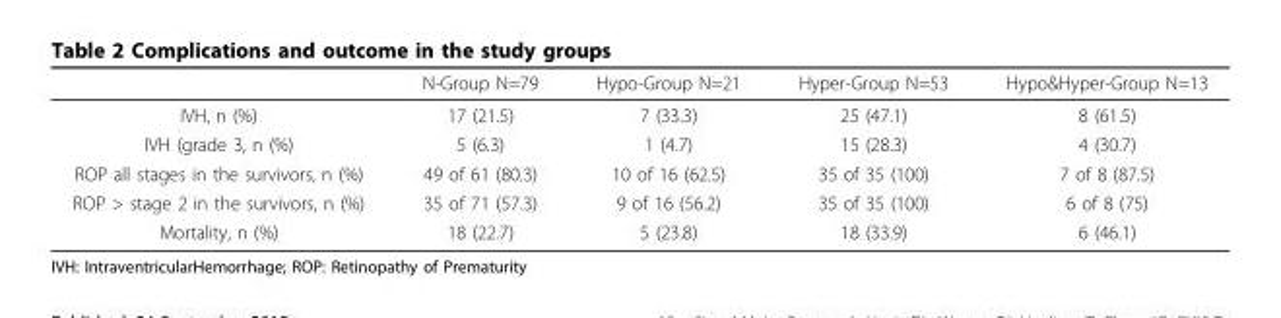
<table><thead><tr><td></td><td>N-Group N=79</td><td>Hypo-Group N=21</td><td>Hyper-Group N=53</td><td>Hypo&amp;Hyper-Group N=13</td></tr></thead><tbody><tr><td>IVH, n (%)</td><td>17 (21.5)</td><td>7 (33.3)</td><td>25 (47.1)</td><td>8 (61.5)</td></tr><tr><td>IVH (grade 3, n (%)</td><td>5 (6.3)</td><td>1 (4.7)</td><td>15 (28.3)</td><td>4 (30.7)</td></tr><tr><td>ROP all stages in the survivors, n (%)</td><td>49 of 61 (80.3)</td><td>10 of 16 (62.5)</td><td>35 of 35 (100)</td><td>7 of 8 (87.5)</td></tr><tr><td>ROP &gt; stage 2 in the survivors, n (%)</td><td>35 of 71 (57.3)</td><td>9 of 16 (56.2)</td><td>35 of 35 (100)</td><td>6 of 8 (75)</td></tr><tr><td>Mortality, n (%)</td><td>18 (22.7)</td><td>5 (23.8)</td><td>18 (33.9)</td><td>6 (46.1)</td></tr></tbody></table>